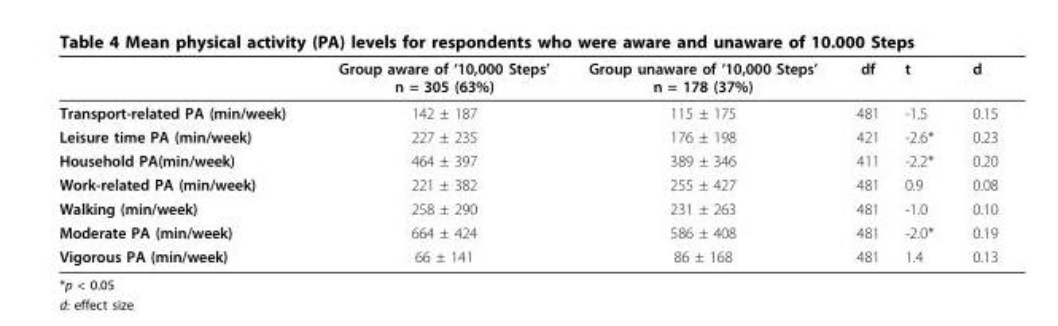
<table><thead><tr><td></td><td>Group aware of ‘10,000 Steps’ n = 305 (63%)</td><td>Group unaware of ‘10,000 Steps’ n = 178 (37%)</td><td>df</td><td>t</td><td>d</td></tr></thead><tbody><tr><td>Transport-related PA (min/week)</td><td>142 ± 187</td><td>115 ± 175</td><td>481</td><td>-1.5</td><td>0.15</td></tr><tr><td>Leisure time PA (min/week)</td><td>227 ± 235</td><td>176 ± 198</td><td>421</td><td>-2.6*</td><td>0.23</td></tr><tr><td>Household PA(min/week)</td><td>464 ± 397</td><td>389 ± 346</td><td>411</td><td>-2.2*</td><td>0.20</td></tr><tr><td>Work-related PA (min/week)</td><td>221 ± 382</td><td>255 ± 427</td><td>481</td><td>0.9</td><td>0.08</td></tr><tr><td>Walking (min/week)</td><td>258 ± 290</td><td>231 ± 263</td><td>481</td><td>-1.0</td><td>0.10</td></tr><tr><td>Moderate PA (min/week)</td><td>664 ± 424</td><td>586 ± 408</td><td>481</td><td>-2.0*</td><td>0.19</td></tr><tr><td>Vigorous PA (min/week)</td><td>66 ± 141</td><td>86 ± 168</td><td>481</td><td>1.4</td><td>0.13</td></tr></tbody></table>